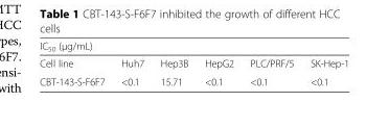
<table><thead><tr><td colspan="6">IC<sub>50</sub> (μg/mL)</td></tr><tr><td>Cell line</td><td>Huh7</td><td>Hep3B</td><td>HepG2</td><td>PLC/PRF/5</td><td>SK-Hep-1</td></tr></thead><tbody><tr><td>CBT-143-S-F6F7</td><td>&lt;0.1</td><td>15.71</td><td>&lt;0.1</td><td>&lt;0.1</td><td>&lt;0.1</td></tr></tbody></table>